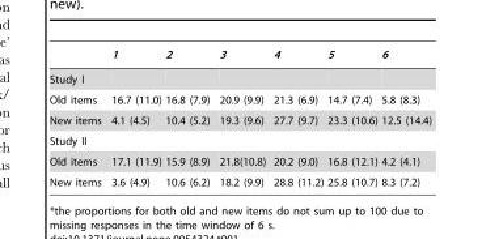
<table><thead><tr><td></td><td>1</td><td>2</td><td>3</td><td>4</td><td>5</td><td>6</td></tr></thead><tbody><tr><td colspan="7">Study I</td></tr><tr><td>Old items</td><td>16.7 (11.0)</td><td>16.8 (7.9)</td><td>20.9 (9.9)</td><td>21.3 (6.9)</td><td>14.7 (7.4)</td><td>5.8 (8.3)</td></tr><tr><td>New items</td><td>4.1 (4.5)</td><td>10.4 (5.2)</td><td>19.3 (9.6)</td><td>27.7 (9.7)</td><td>23.3 (10.6)</td><td>12.5 (14.4)</td></tr><tr><td colspan="7">Study II</td></tr><tr><td>Old items</td><td>17.1 (11.9)</td><td>15.9 (8.9)</td><td>21.8(10.8)</td><td>20.2 (9.0)</td><td>16.8 (12.1)</td><td>4.2 (4.1)</td></tr><tr><td>New items</td><td>3.6 (4.9)</td><td>10.6 (6.2)</td><td>18.2 (9.9)</td><td>28.8 (11.2)</td><td>25.8 (10.7)</td><td>8.3 (7.2)</td></tr></tbody></table>